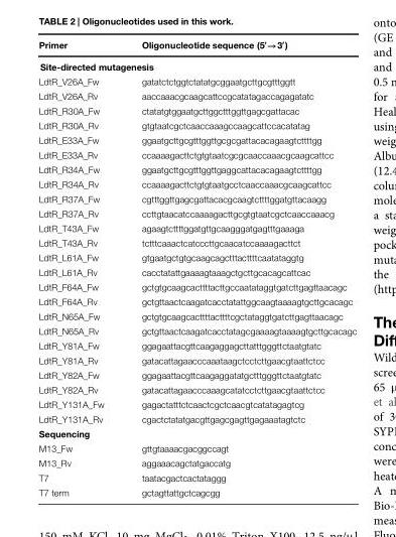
<table><thead><tr><td>Primer</td><td>Oligonucleotide sequence (5′→3′)</td></tr></thead><tbody><tr><td colspan="2">Site-directed mutagenesis</td></tr><tr><td>LdtR_V26A_Fw</td><td>gatatctctggtctatatgcggaatgcttgcgtttggtt</td></tr><tr><td>LdtR_V26A_Rv</td><td>aaccaaacgcaagcattccgcatatagaccagagatatc</td></tr><tr><td>LdtR_R30A_Fw</td><td>ctatatgtggaatgcttggctttggttgagcgattacac</td></tr><tr><td>LdtR_R30A_Rv</td><td>gtgtaatcgctcaaccaaagccaagcattccacatatag</td></tr><tr><td>LdtR_E33A_Fw</td><td>ggaatgcttgcgtttggttgcgcgattacacagaagtcttttgg</td></tr><tr><td>LdtR_E33A_Rv</td><td>ccaaaagacttctgtgtaatcgcgcaaccaaacgcaagcattcc</td></tr><tr><td>LdtR_R34A_Fw</td><td>ggaatgcttgcgtttggttgaggcattacacagaagtcttttgg</td></tr><tr><td>LdtR_R34A_Rv</td><td>ccaaaagacttctgtgtaatgcctcaaccaaacgcaagcattcc</td></tr><tr><td>LdtR_R37A_Fw</td><td>cgtttggttgagcgattacacgcaagtcttttggatgttacaagg</td></tr><tr><td>LdtR_R37A_Rv</td><td>ccttgtaacatccaaaagacttgcgtgtaatcgctcaaccaaacg</td></tr><tr><td>LdtR_T43A_Fw</td><td>agaagtcttttggatgttgcaagggatgagtttgaaaga</td></tr><tr><td>LdtR_T43A_Rv</td><td>tctttcaaactcatcccttgcaacatccaaaagacttct</td></tr><tr><td>LdtR_L61A_Fw</td><td>gtgaatgctgtgcaagcagctttacttttcaatataggtg</td></tr><tr><td>LdtR_L61A_Rv</td><td>cacctatattgaaaagtaaagctgcttgcacagcattcac</td></tr><tr><td>LdtR_F64A_Fw</td><td>gctgtgcaagcacttttacttgccaatataggtgatcttgagttaacagc</td></tr><tr><td>LdtR_F64A_Rv</td><td>gctgttaactcaagatcacctatattggcaagtaaaagtgcttgcacagc</td></tr><tr><td>LdtR_N65A_Fw</td><td>gctgtgcaagcacttttacttttcgctataggtgatcttgagttaacagc</td></tr><tr><td>LdtR_N65A_Rv</td><td>gctgttaactcaagatcacctatagcgaaaagtaaaagtgcttgcacagc</td></tr><tr><td>LdtR_Y81A_Fw</td><td>ggagaattacgttcaagaggagcttatttgggttctaatgtatc</td></tr><tr><td>LdtR_Y81A_Rv</td><td>gatacattagaacccaaataagctcctcttgaacgtaattctcc</td></tr><tr><td>LdtR_Y82A_Fw</td><td>ggagaattacgttcaagaggatatgctttgggttctaatgtatc</td></tr><tr><td>LdtR_Y82A_Rv</td><td>gatacattagaacccaaagcatatcctcttgaacgtaattctcc</td></tr><tr><td>LdtR_Y131A_Fw</td><td>gagactatttctcaactcgctcaacgtcatatagagtcg</td></tr><tr><td>LdtR_Y131A_Rv</td><td>cgactctatatgacgttgagcgagttgagaaatagtctc</td></tr><tr><td colspan="2">Sequencing</td></tr><tr><td>M13_Fw</td><td>gttgtaaaacgacggccagt</td></tr><tr><td>M13_Rv</td><td>aggaaacagctatgaccatg</td></tr><tr><td>T7</td><td>taatacgactcactataggg</td></tr><tr><td>T7 term</td><td>gctagttattgctcagcgg</td></tr></tbody></table>